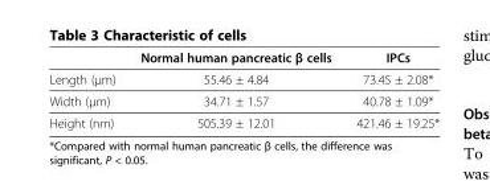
<table><thead><tr><td></td><td>Normal human pancreatic β cells</td><td>IPCs</td></tr></thead><tbody><tr><td>Length (μm)</td><td>55.46 ± 4.84</td><td>73.45 ± 2.08*</td></tr><tr><td>Width (μm)</td><td>34.71 ± 1.57</td><td>40.78 ± 1.09*</td></tr><tr><td>Height (nm)</td><td>505.39 ± 12.01</td><td>421.46 ± 19.25*</td></tr></tbody></table>